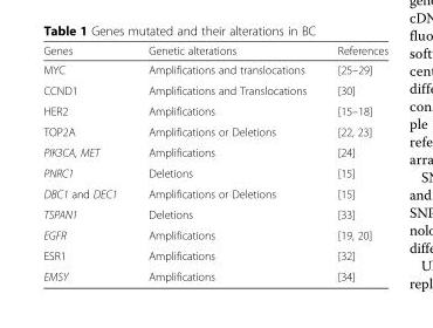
<table><thead><tr><td>Genes</td><td>Genetic alterations</td><td>References</td></tr></thead><tbody><tr><td>MYC</td><td>Amplifications and translocations</td><td>[25–29]</td></tr><tr><td>CCND1</td><td>Amplifications and Translocations</td><td>[30]</td></tr><tr><td>HER2</td><td>Amplifications</td><td>[15–18]</td></tr><tr><td>TOP2A</td><td>Amplifications or Deletions</td><td>[22, 23]</td></tr><tr><td>PIK3CA, MET</td><td>Amplifications</td><td>[24]</td></tr><tr><td>PNRC1</td><td>Deletions</td><td>[15]</td></tr><tr><td>DBC1 and DEC1</td><td>Amplifications or Deletions</td><td>[15]</td></tr><tr><td>TSPAN1</td><td>Deletions</td><td>[33]</td></tr><tr><td>EGFR</td><td>Amplifications</td><td>[19, 20]</td></tr><tr><td>ESR1</td><td>Amplifications</td><td>[32]</td></tr><tr><td>EMSY</td><td>Amplifications</td><td>[34]</td></tr></tbody></table>